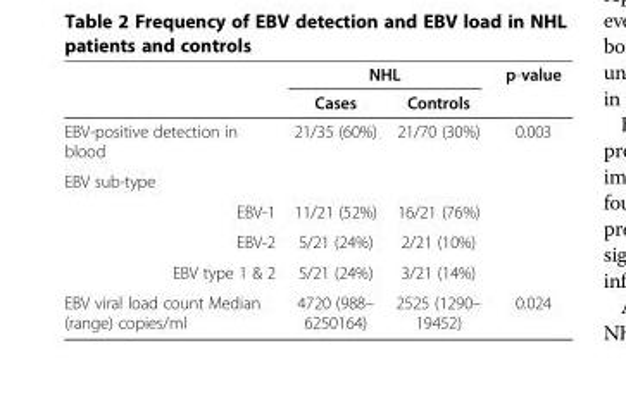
<table><thead><tr><td rowspan="2"></td><td colspan="2">NHL</td><td rowspan="2">p-value</td></tr><tr><td>Cases</td><td>Controls</td></tr></thead><tbody><tr><td>EBV-positive detection in blood</td><td>21/35 (60%)</td><td>21/70 (30%)</td><td>0.003</td></tr><tr><td colspan="4">EBV sub-type</td></tr><tr><td>EBV-1</td><td>11/21 (52%)</td><td>16/21 (76%)</td><td></td></tr><tr><td>EBV-2</td><td>5/21 (24%)</td><td>2/21 (10%)</td><td></td></tr><tr><td>EBV type 1 &amp; 2</td><td>5/21 (24%)</td><td>3/21 (14%)</td><td></td></tr><tr><td>EBV viral load count Median (range) copies/ml</td><td>4720 (988– 6250164)</td><td>2525 (1290– 19452)</td><td>0.024</td></tr></tbody></table>